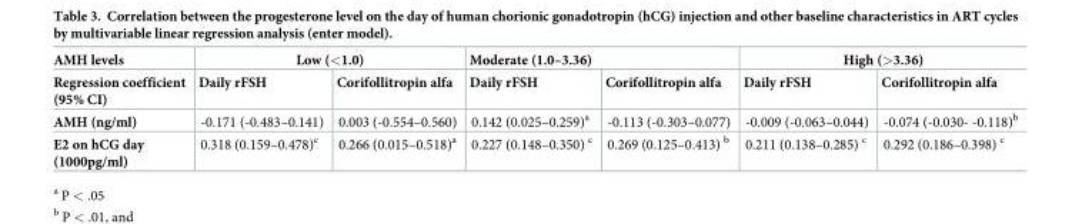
<table><thead><tr><td rowspan="2">AMH levels Regression coefficient (95% CI)</td><td colspan="2">Low (&lt;1.0)</td><td colspan="2">Moderate (1.0–3.36)</td><td colspan="2">High (&gt;3.36)</td></tr><tr><td>Daily rFSH</td><td>Corifollitropin alfa</td><td>Daily rFSH</td><td>Corifollitropin alfa</td><td>Daily rFSH</td><td>Corifollitropin alfa</td></tr></thead><tbody><tr><td>AMH (ng/ml)</td><td>-0.171 (-0.483–0.141)</td><td>0.003 (-0.554–0.560)</td><td>0.142 (0.025–0.259)<sup>a</sup></td><td>-0.113 (-0.303–0.077)</td><td>-0.009 (-0.063–0.044)</td><td>-0.074 (-0.030- -0.118)<sup>b</sup></td></tr><tr><td>E2 on hCG day (1000pg/ml)</td><td>0.318 (0.159–0.478)<sup>c</sup></td><td>0.266 (0.015–0.518)<sup>a</sup></td><td>0.227 (0.148–0.350) <sup>c</sup></td><td>0.269 (0.125–0.413) <sup>b</sup></td><td>0.211 (0.138–0.285) <sup>c</sup></td><td>0.292 (0.186–0.398) <sup>c</sup></td></tr></tbody></table>